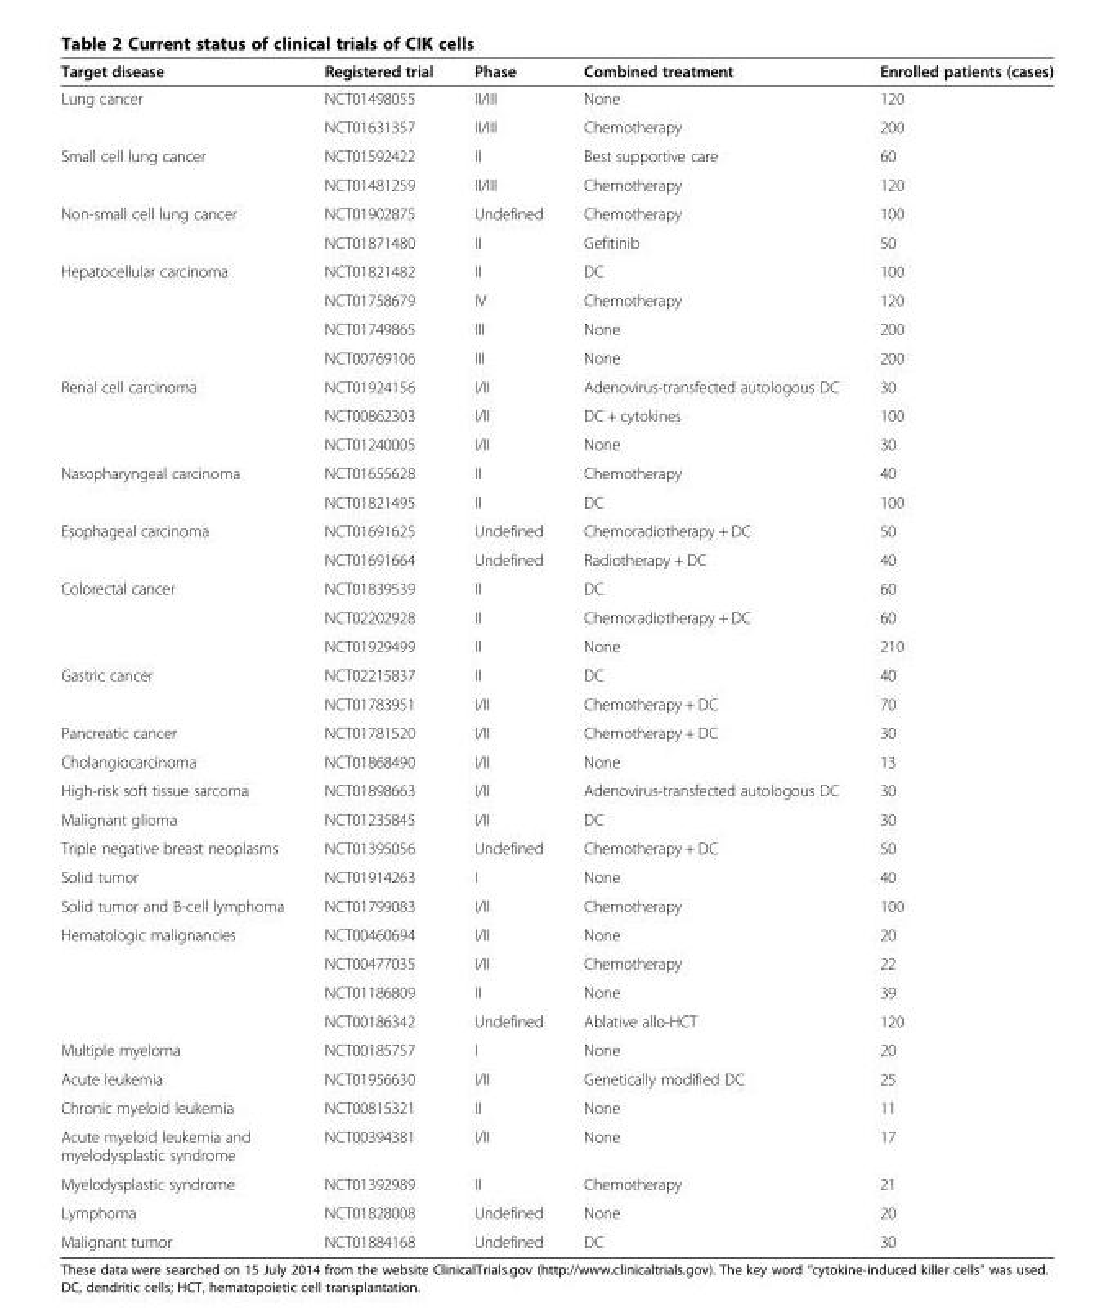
<table><thead><tr><td>Target disease</td><td>Registered trial</td><td>Phase</td><td>Combined treatment</td><td>Enrolled patients (cases)</td></tr></thead><tbody><tr><td rowspan="2">Lung cancer</td><td>NCT01498055</td><td>II/III</td><td>None</td><td>120</td></tr><tr><td>NCT01631357</td><td>II/III</td><td>Chemotherapy</td><td>200</td></tr><tr><td rowspan="2">Small cell lung cancer</td><td>NCT01592422</td><td>II</td><td>Best supportive care</td><td>60</td></tr><tr><td>NCT01481259</td><td>II/III</td><td>Chemotherapy</td><td>120</td></tr><tr><td rowspan="2">Non-small cell lung cancer</td><td>NCT01902875</td><td>Undefined</td><td>Chemotherapy</td><td>100</td></tr><tr><td>NCT01871480</td><td>II</td><td>Gefitinib</td><td>50</td></tr><tr><td rowspan="4">Hepatocellular carcinoma</td><td>NCT01821482</td><td>II</td><td>DC</td><td>100</td></tr><tr><td>NCT01758679</td><td>IV</td><td>Chemotherapy</td><td>120</td></tr><tr><td>NCT01749865</td><td>III</td><td>None</td><td>200</td></tr><tr><td>NCT00769106</td><td>III</td><td>None</td><td>200</td></tr><tr><td rowspan="3">Renal cell carcinoma</td><td>NCT01924156</td><td>I/II</td><td>Adenovirus-transfected autologous DC</td><td>30</td></tr><tr><td>NCT00862303</td><td>I/II</td><td>DC + cytokines</td><td>100</td></tr><tr><td>NCT01240005</td><td>I/II</td><td>None</td><td>30</td></tr><tr><td rowspan="2">Nasopharyngeal carcinoma</td><td>NCT01655628</td><td>II</td><td>Chemotherapy</td><td>40</td></tr><tr><td>NCT01821495</td><td>II</td><td>DC</td><td>100</td></tr><tr><td rowspan="2">Esophageal carcinoma</td><td>NCT01691625</td><td>Undefined</td><td>Chemoradiotherapy + DC</td><td>50</td></tr><tr><td>NCT01691664</td><td>Undefined</td><td>Radiotherapy + DC</td><td>40</td></tr><tr><td rowspan="3">Colorectal cancer</td><td>NCT01839539</td><td>II</td><td>DC</td><td>60</td></tr><tr><td>NCT02202928</td><td>II</td><td>Chemoradiotherapy + DC</td><td>60</td></tr><tr><td>NCT01929499</td><td>II</td><td>None</td><td>210</td></tr><tr><td rowspan="2">Gastric cancer</td><td>NCT02215837</td><td>II</td><td>DC</td><td>40</td></tr><tr><td>NCT01783951</td><td>I/II</td><td>Chemotherapy + DC</td><td>70</td></tr><tr><td>Pancreatic cancer</td><td>NCT01781520</td><td>I/II</td><td>Chemotherapy + DC</td><td>30</td></tr><tr><td>Cholangiocarcinoma</td><td>NCT01868490</td><td>I/II</td><td>None</td><td>13</td></tr><tr><td>High-risk soft tissue sarcoma</td><td>NCT01898663</td><td>I/II</td><td>Adenovirus-transfected autologous DC</td><td>30</td></tr><tr><td>Malignant glioma</td><td>NCT01235845</td><td>I/II</td><td>DC</td><td>30</td></tr><tr><td>Triple negative breast neoplasms</td><td>NCT01395056</td><td>Undefined</td><td>Chemotherapy + DC</td><td>50</td></tr><tr><td>Solid tumor</td><td>NCT01914263</td><td>I</td><td>None</td><td>40</td></tr><tr><td>Solid tumor and B-cell lymphoma</td><td>NCT01799083</td><td>I/II</td><td>Chemotherapy</td><td>100</td></tr><tr><td rowspan="4">Hematologic malignancies</td><td>NCT00460694</td><td>I/II</td><td>None</td><td>20</td></tr><tr><td>NCT00477035</td><td>I/II</td><td>Chemotherapy</td><td>22</td></tr><tr><td>NCT01186809</td><td>II</td><td>None</td><td>39</td></tr><tr><td>NCT00186342</td><td>Undefined</td><td>Ablative allo-HCT</td><td>120</td></tr><tr><td>Multiple myeloma</td><td>NCT00185757</td><td>I</td><td>None</td><td>20</td></tr><tr><td>Acute leukemia</td><td>NCT01956630</td><td>I/II</td><td>Genetically modified DC</td><td>25</td></tr><tr><td>Chronic myeloid leukemia</td><td>NCT00815321</td><td>II</td><td>None</td><td>11</td></tr><tr><td>Acute myeloid leukemia and myelodysplastic syndrome</td><td>NCT00394381</td><td>I/II</td><td>None</td><td>17</td></tr><tr><td>Myelodysplastic syndrome</td><td>NCT01392989</td><td>II</td><td>Chemotherapy</td><td>21</td></tr><tr><td>Lymphoma</td><td>NCT01828008</td><td>Undefined</td><td>None</td><td>20</td></tr><tr><td>Malignant tumor</td><td>NCT01884168</td><td>Undefined</td><td>DC</td><td>30</td></tr></tbody></table>